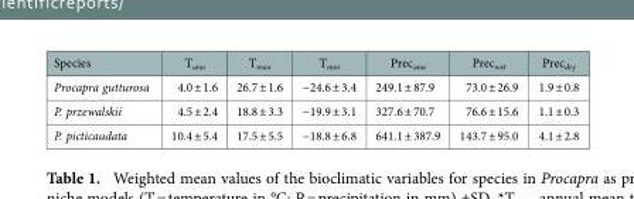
<table><thead><tr><td>Species</td><td>T<sub>anu</sub></td><td>T<sub>max</sub></td><td>T<sub>min</sub></td><td>Prec<sub>anu</sub></td><td>Prec<sub>wet</sub></td><td>Prec<sub>dry</sub></td></tr></thead><tbody><tr><td>Procapra gutturosa</td><td>4.0 ± 1.6</td><td>26.7 ± 1.6</td><td>−24.6 ± 3.4</td><td>249.1 ± 87.9</td><td>73.0 ± 26.9</td><td>1.9 ± 0.8</td></tr><tr><td>P. przewalskii</td><td>4.5 ± 2.4</td><td>18.8 ± 3.3</td><td>−19.9 ± 3.1</td><td>327.6 ± 70.7</td><td>76.6 ± 15.6</td><td>1.1 ± 0.3</td></tr><tr><td>P. picticaudata</td><td>10.4 ± 5.4</td><td>17.5 ± 5.5</td><td>−18.8 ± 6.8</td><td>641.1 ± 387.9</td><td>143.7 ± 95.0</td><td>4.1 ± 2.8</td></tr></tbody></table>